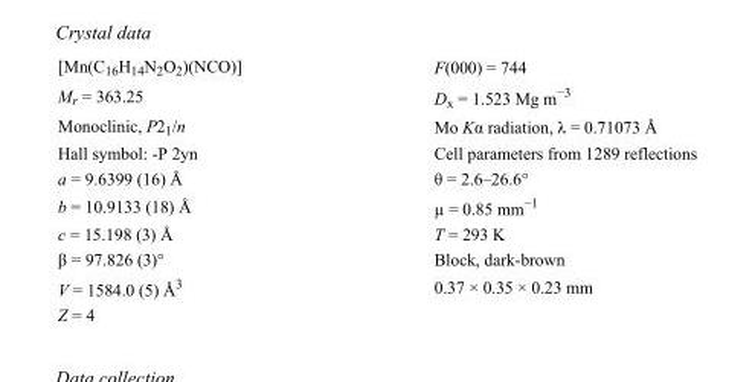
<table><tbody><tr><td>[Mn(C<sub>16</sub>H<sub>14</sub>N<sub>2</sub>O<sub>2</sub>)(NCO)]</td><td>F(000) = 744</td></tr><tr><td>M<sub>r</sub> = 363.25</td><td>D<sub>x</sub> = 1.523 Mg m<sup>−3</sup></td></tr><tr><td>Monoclinic, P2<sub>1</sub>/n</td><td>Mo Kα radiation, λ = 0.71073 Å</td></tr><tr><td>Hall symbol: -P 2yn</td><td>Cell parameters from 1289 reflections</td></tr><tr><td>a = 9.6399 (16) Å</td><td>θ = 2.6–26.6°</td></tr><tr><td>b = 10.9133 (18) Å</td><td>µ = 0.85 mm<sup>−1</sup></td></tr><tr><td>c = 15.198 (3) Å</td><td>T = 293 K</td></tr><tr><td>β = 97.826 (3)°</td><td>Block, dark-brown</td></tr><tr><td>V = 1584.0 (5) Å<sup>3</sup></td><td>0.37 × 0.35 × 0.23 mm</td></tr><tr><td>Z = 4</td><td></td></tr></tbody></table>